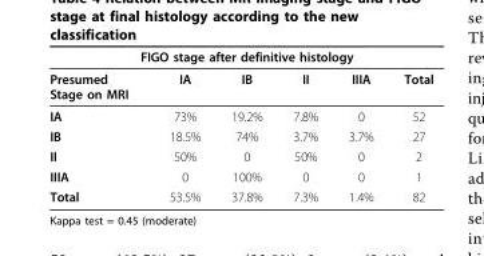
<table><thead><tr><td colspan="6">FIGO stage after definitive histology</td></tr><tr><td>Presumed Stage on MRI</td><td>IA</td><td>IB</td><td>II</td><td>IIIA</td><td>Total</td></tr></thead><tbody><tr><td>IA</td><td>73%</td><td>19.2%</td><td>7.8%</td><td>0</td><td>52</td></tr><tr><td>IB</td><td>18.5%</td><td>74%</td><td>3.7%</td><td>3.7%</td><td>27</td></tr><tr><td>II</td><td>50%</td><td>0</td><td>50%</td><td>0</td><td>2</td></tr><tr><td>IIIA</td><td>0</td><td>100%</td><td>0</td><td>0</td><td>1</td></tr><tr><td>Total</td><td>53.5%</td><td>37.8%</td><td>7.3%</td><td>1.4%</td><td>82</td></tr></tbody></table>